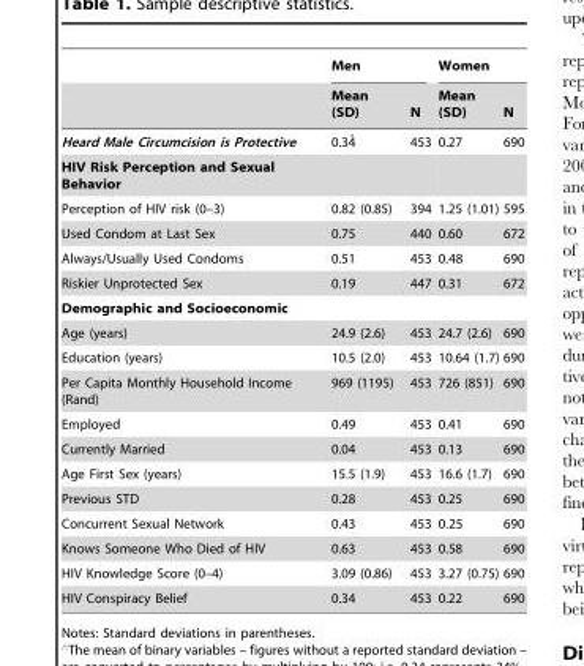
<table><thead><tr><td rowspan="2"></td><td colspan="2">Men</td><td colspan="2">Women</td></tr><tr><td>Mean (SD)</td><td>N</td><td>Mean (SD)</td><td>N</td></tr></thead><tbody><tr><td>Heard Male Circumcision is Protective</td><td>0.34ˆ</td><td>453</td><td>0.27</td><td>690</td></tr><tr><td colspan="5">HIV Risk Perception and Sexual Behavior</td></tr><tr><td>Perception of HIV risk (0–3)</td><td>0.82 (0.85)</td><td>394</td><td>1.25 (1.01)</td><td>595</td></tr><tr><td>Used Condom at Last Sex</td><td>0.75</td><td>440</td><td>0.60</td><td>672</td></tr><tr><td>Always/Usually Used Condoms</td><td>0.51</td><td>453</td><td>0.48</td><td>690</td></tr><tr><td>Riskier Unprotected Sex</td><td>0.19</td><td>447</td><td>0.31</td><td>672</td></tr><tr><td colspan="5">Demographic and Socioeconomic</td></tr><tr><td>Age (years)</td><td>24.9 (2.6)</td><td>453</td><td>24.7 (2.6)</td><td>690</td></tr><tr><td>Education (years)</td><td>10.5 (2.0)</td><td>453</td><td>10.64 (1.7)</td><td>690</td></tr><tr><td>Per Capita Monthly Household Income (Rand)</td><td>969 (1195)</td><td>453</td><td>726 (851)</td><td>690</td></tr><tr><td>Employed</td><td>0.49</td><td>453</td><td>0.41</td><td>690</td></tr><tr><td>Currently Married</td><td>0.04</td><td>453</td><td>0.13</td><td>690</td></tr><tr><td>Age First Sex (years)</td><td>15.5 (1.9)</td><td>453</td><td>16.6 (1.7)</td><td>690</td></tr><tr><td>Previous STD</td><td>0.28</td><td>453</td><td>0.25</td><td>690</td></tr><tr><td>Concurrent Sexual Network</td><td>0.43</td><td>453</td><td>0.25</td><td>690</td></tr><tr><td>Knows Someone Who Died of HIV</td><td>0.63</td><td>453</td><td>0.58</td><td>690</td></tr><tr><td>HIV Knowledge Score (0–4)</td><td>3.09 (0.86)</td><td>453</td><td>3.27 (0.75)</td><td>690</td></tr><tr><td>HIV Conspiracy Belief</td><td>0.34</td><td>453</td><td>0.22</td><td>690</td></tr></tbody></table>